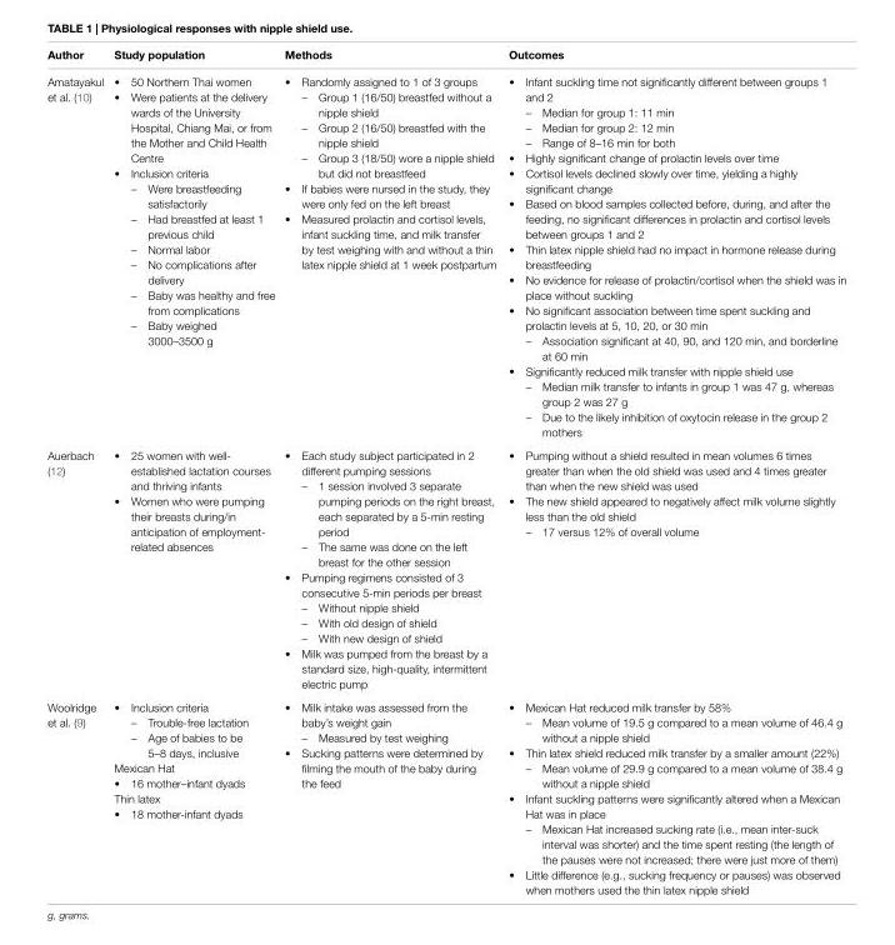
<table><thead><tr><td>Author</td><td>Study population</td><td>Methods</td><td>Outcomes</td></tr></thead><tbody><tr><td>Amatayakul et al. (10)</td><td>• 50 Northern Thai women • Were patients at the delivery wards of the University Hospital, Chiang Mai, or from the Mother and Child Health Centre • Inclusion criteria – Were breastfeeding satisfactorily – Had breastfed at least 1 previous child – Normal labor – No complications after delivery – Baby was healthy and free from complications – Baby weighed 3000–3500 g</td><td>• Randomly assigned to 1 of 3 groups – Group 1 (16/50) breastfed without a nipple shield – Group 2 (16/50) breastfed with the nipple shield – Group 3 (18/50) wore a nipple shield but did not breastfeed • If babies were nursed in the study, they were only fed on the left breast • Measured prolactin and cortisol levels, infant suckling time, and milk transfer by test weighing with and without a thin latex nipple shield at 1 week postpartum</td><td>• Infant suckling time not significantly different between groups 1 and 2 – Median for group 1: 11 min – Median for group 2: 12 min – Range of 8–16 min for both • Highly significant change of prolactin levels over time • Cortisol levels declined slowly over time, yielding a highly significant change • Based on blood samples collected before, during, and after the feeding, no significant differences in prolactin and cortisol levels between groups 1 and 2 • Thin latex nipple shield had no impact in hormone release during breastfeeding • No evidence for release of prolactin/cortisol when the shield was in place without suckling • No significant association between time spent suckling and prolactin levels at 5, 10, 20, or 30 min – Association significant at 40, 90, and 120 min, and borderline at 60 min • Significantly reduced milk transfer with nipple shield use – Median milk transfer to infants in group 1 was 47 g, whereas group 2 was 27 g – Due to the likely inhibition of oxytocin release in the group 2 mothers</td></tr><tr><td>Auerbach (12)</td><td>• 25 women with well- established lactation courses and thriving infants • Women who were pumping their breasts during/in anticipation of employment- related absences</td><td>• Each study subject participated in 2 different pumping sessions – 1 session involved 3 separate pumping periods on the right breast, each separated by a 5-min resting period – The same was done on the left breast for the other session • Pumping regimens consisted of 3 consecutive 5-min periods per breast – Without nipple shield – With old design of shield – With new design of shield • Milk was pumped from the breast by a standard size, high-quality, intermittent electric pump</td><td>• Pumping without a shield resulted in mean volumes 6 times greater than when the old shield was used and 4 times greater than when the new shield was used • The new shield appeared to negatively affect milk volume slightly less than the old shield – 17 versus 12% of overall volume</td></tr><tr><td>Woolridge et al. (9)</td><td>• Inclusion criteria – Trouble-free lactation – Age of babies to be 5–8 days, inclusive Mexican Hat • 16 mother–infant dyads Thin latex • 18 mother-infant dyads</td><td>• Milk intake was assessed from the baby’s weight gain – Measured by test weighing • Sucking patterns were determined by filming the mouth of the baby during the feed</td><td>• Mexican Hat reduced milk transfer by 58% – Mean volume of 19.5 g compared to a mean volume of 46.4 g without a nipple shield • Thin latex shield reduced milk transfer by a smaller amount (22%) – Mean volume of 29.9 g compared to a mean volume of 38.4 g without a nipple shield • Infant suckling patterns were significantly altered when a Mexican Hat was in place – Mexican Hat increased sucking rate (i.e., mean inter-suck interval was shorter) and the time spent resting (the length of the pauses were not increased; there were just more of them) • Little difference (e.g., sucking frequency or pauses) was observed when mothers used the thin latex nipple shield</td></tr></tbody></table>